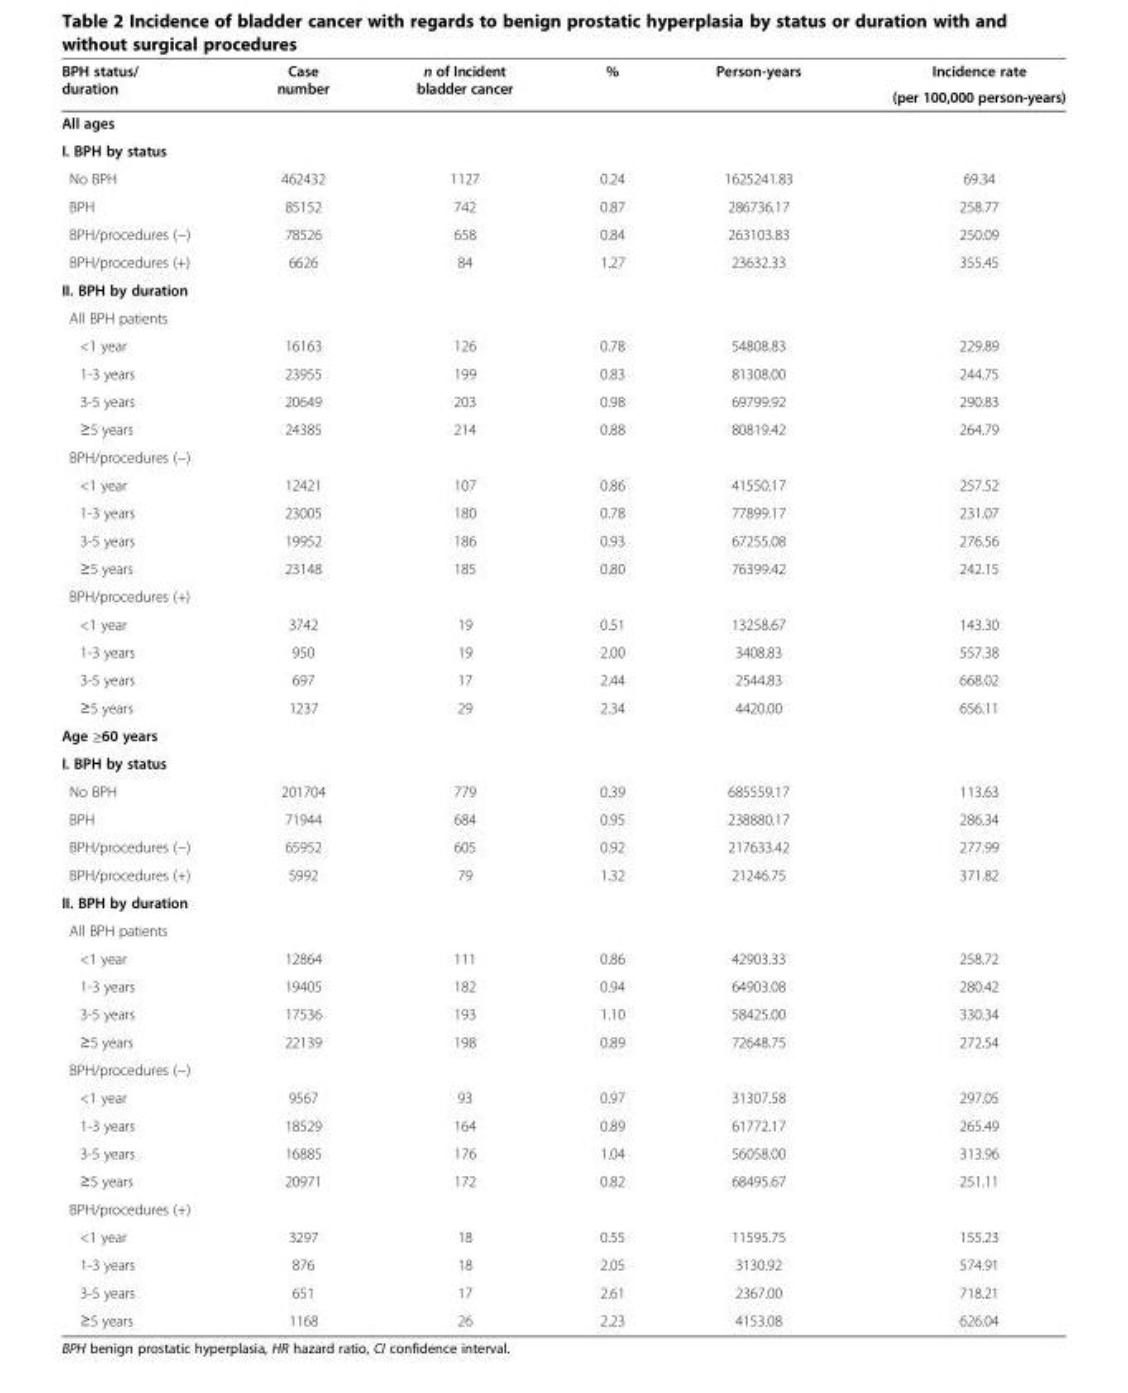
<table><thead><tr><td rowspan="2">BPH status/ duration</td><td rowspan="2">Case number</td><td rowspan="2">n of Incident bladder cancer</td><td rowspan="2">%</td><td rowspan="2">Person-years</td><td rowspan="2">Incidence rate (per 100,000 person-years)</td></tr><tr></tr></thead><tbody><tr><td colspan="6">All ages</td></tr><tr><td colspan="6">I. BPH by status</td></tr><tr><td>No BPH</td><td>462432</td><td>1127</td><td>0.24</td><td>1625241.83</td><td>69.34</td></tr><tr><td>BPH</td><td>85152</td><td>742</td><td>0.87</td><td>286736.17</td><td>258.77</td></tr><tr><td>BPH/procedures (−)</td><td>78526</td><td>658</td><td>0.84</td><td>263103.83</td><td>250.09</td></tr><tr><td>BPH/procedures (+)</td><td>6626</td><td>84</td><td>1.27</td><td>23632.33</td><td>355.45</td></tr><tr><td colspan="6">II. BPH by duration</td></tr><tr><td colspan="6">All BPH patients</td></tr><tr><td>&lt;1 year</td><td>16163</td><td>126</td><td>0.78</td><td>54808.83</td><td>229.89</td></tr><tr><td>1-3 years</td><td>23955</td><td>199</td><td>0.83</td><td>81308.00</td><td>244.75</td></tr><tr><td>3-5 years</td><td>20649</td><td>203</td><td>0.98</td><td>69799.92</td><td>290.83</td></tr><tr><td>≥5 years</td><td>24385</td><td>214</td><td>0.88</td><td>80819.42</td><td>264.79</td></tr><tr><td colspan="6">BPH/procedures (−)</td></tr><tr><td>&lt;1 year</td><td>12421</td><td>107</td><td>0.86</td><td>41550.17</td><td>257.52</td></tr><tr><td>1-3 years</td><td>23005</td><td>180</td><td>0.78</td><td>77899.17</td><td>231.07</td></tr><tr><td>3-5 years</td><td>19952</td><td>186</td><td>0.93</td><td>67255.08</td><td>276.56</td></tr><tr><td>≥5 years</td><td>23148</td><td>185</td><td>0.80</td><td>76399.42</td><td>242.15</td></tr><tr><td colspan="6">BPH/procedures (+)</td></tr><tr><td>&lt;1 year</td><td>3742</td><td>19</td><td>0.51</td><td>13258.67</td><td>143.30</td></tr><tr><td>1-3 years</td><td>950</td><td>19</td><td>2.00</td><td>3408.83</td><td>557.38</td></tr><tr><td>3-5 years</td><td>697</td><td>17</td><td>2.44</td><td>2544.83</td><td>668.02</td></tr><tr><td>≥5 years</td><td>1237</td><td>29</td><td>2.34</td><td>4420.00</td><td>656.11</td></tr><tr><td colspan="6">Age ≥60 years</td></tr><tr><td colspan="6">I. BPH by status</td></tr><tr><td>No BPH</td><td>201704</td><td>779</td><td>0.39</td><td>685559.17</td><td>113.63</td></tr><tr><td>BPH</td><td>71944</td><td>684</td><td>0.95</td><td>238880.17</td><td>286.34</td></tr><tr><td>BPH/procedures (−)</td><td>65952</td><td>605</td><td>0.92</td><td>217633.42</td><td>277.99</td></tr><tr><td>BPH/procedures (+)</td><td>5992</td><td>79</td><td>1.32</td><td>21246.75</td><td>371.82</td></tr><tr><td colspan="6">II. BPH by duration</td></tr><tr><td colspan="6">All BPH patients</td></tr><tr><td>&lt;1 year</td><td>12864</td><td>111</td><td>0.86</td><td>42903.33</td><td>258.72</td></tr><tr><td>1-3 years</td><td>19405</td><td>182</td><td>0.94</td><td>64903.08</td><td>280.42</td></tr><tr><td>3-5 years</td><td>17536</td><td>193</td><td>1.10</td><td>58425.00</td><td>330.34</td></tr><tr><td>≥5 years</td><td>22139</td><td>198</td><td>0.89</td><td>72648.75</td><td>272.54</td></tr><tr><td colspan="6">BPH/procedures (−)</td></tr><tr><td>&lt;1 year</td><td>9567</td><td>93</td><td>0.97</td><td>31307.58</td><td>297.05</td></tr><tr><td>1-3 years</td><td>18529</td><td>164</td><td>0.89</td><td>61772.17</td><td>265.49</td></tr><tr><td>3-5 years</td><td>16885</td><td>176</td><td>1.04</td><td>56058.00</td><td>313.96</td></tr><tr><td>≥5 years</td><td>20971</td><td>172</td><td>0.82</td><td>68495.67</td><td>251.11</td></tr><tr><td colspan="6">BPH/procedures (+)</td></tr><tr><td>&lt;1 year</td><td>3297</td><td>18</td><td>0.55</td><td>11595.75</td><td>155.23</td></tr><tr><td>1-3 years</td><td>876</td><td>18</td><td>2.05</td><td>3130.92</td><td>574.91</td></tr><tr><td>3-5 years</td><td>651</td><td>17</td><td>2.61</td><td>2367.00</td><td>718.21</td></tr><tr><td>≥5 years</td><td>1168</td><td>26</td><td>2.23</td><td>4153.08</td><td>626.04</td></tr></tbody></table>